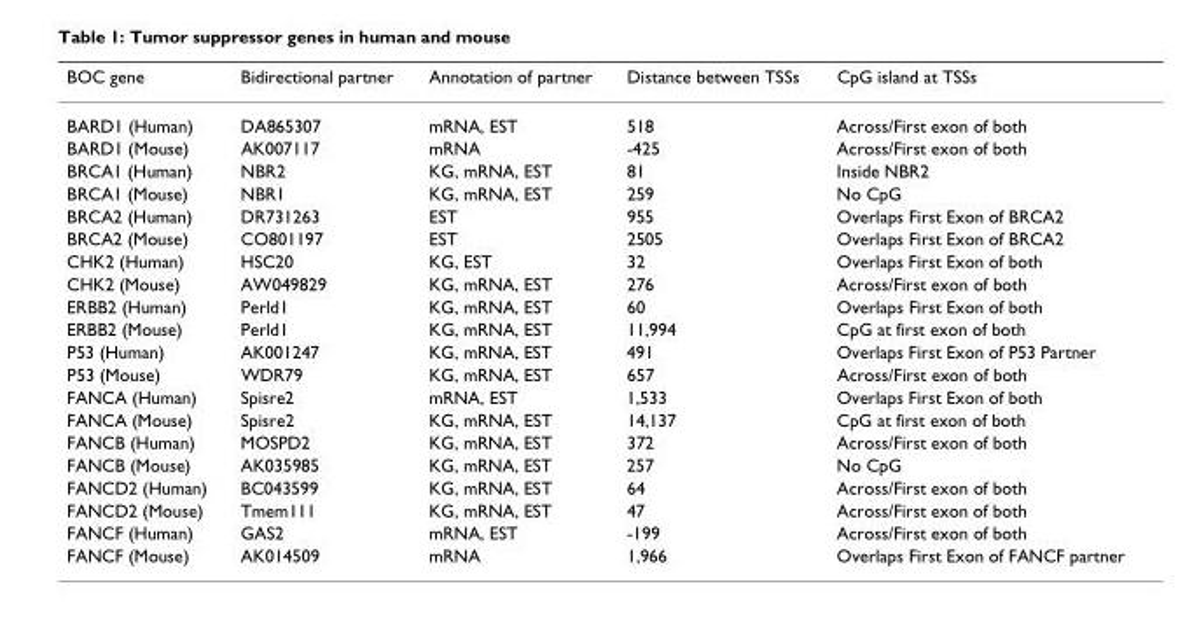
<table><thead><tr><td>BOC gene</td><td>Bidirectional partner</td><td>Annotation of partner</td><td>Distance between TSSs</td><td>CpG island at TSSs</td></tr></thead><tbody><tr><td>BARD1 (Human)</td><td>DA865307</td><td>mRNA, EST</td><td>518</td><td>Across/First exon of both</td></tr><tr><td>BARD1 (Mouse)</td><td>AK007117</td><td>mRNA</td><td>-425</td><td>Across/First exon of both</td></tr><tr><td>BRCA1 (Human)</td><td>NBR2</td><td>KG, mRNA, EST</td><td>81</td><td>Inside NBR2</td></tr><tr><td>BRCA1 (Mouse)</td><td>NBR1</td><td>KG, mRNA, EST</td><td>259</td><td>No CpG</td></tr><tr><td>BRCA2 (Human)</td><td>DR731263</td><td>EST</td><td>955</td><td>Overlaps First Exon of BRCA2</td></tr><tr><td>BRCA2 (Mouse)</td><td>CO801197</td><td>EST</td><td>2505</td><td>Overlaps First Exon of BRCA2</td></tr><tr><td>CHK2 (Human)</td><td>HSC20</td><td>KG, EST</td><td>32</td><td>Overlaps First Exon of both</td></tr><tr><td>CHK2 (Mouse)</td><td>AW049829</td><td>KG, mRNA, EST</td><td>276</td><td>Across/First exon of both</td></tr><tr><td>ERBB2 (Human)</td><td>Perld1</td><td>KG, mRNA, EST</td><td>60</td><td>Overlaps First Exon of both</td></tr><tr><td>ERBB2 (Mouse)</td><td>Perld1</td><td>KG, mRNA, EST</td><td>11,994</td><td>CpG at first exon of both</td></tr><tr><td>P53 (Human)</td><td>AK001247</td><td>KG, mRNA, EST</td><td>491</td><td>Overlaps First Exon of P53 Partner</td></tr><tr><td>P53 (Mouse)</td><td>WDR79</td><td>KG, mRNA, EST</td><td>657</td><td>Across/First exon of both</td></tr><tr><td>FANCA (Human)</td><td>Spisre2</td><td>mRNA, EST</td><td>1,533</td><td>Overlaps First Exon of both</td></tr><tr><td>FANCA (Mouse)</td><td>Spisre2</td><td>KG, mRNA, EST</td><td>14,137</td><td>CpG at first exon of both</td></tr><tr><td>FANCB (Human)</td><td>MOSPD2</td><td>KG, mRNA, EST</td><td>372</td><td>Across/First exon of both</td></tr><tr><td>FANCB (Mouse)</td><td>AK035985</td><td>KG, mRNA, EST</td><td>257</td><td>No CpG</td></tr><tr><td>FANCD2 (Human)</td><td>BC043599</td><td>KG, mRNA, EST</td><td>64</td><td>Across/First exon of both</td></tr><tr><td>FANCD2 (Mouse)</td><td>Tmem111</td><td>KG, mRNA, EST</td><td>47</td><td>Across/First exon of both</td></tr><tr><td>FANCF (Human)</td><td>GAS2</td><td>mRNA, EST</td><td>-199</td><td>Across/First exon of both</td></tr><tr><td>FANCF (Mouse)</td><td>AK014509</td><td>mRNA</td><td>1,966</td><td>Overlaps First Exon of FANCF partner</td></tr></tbody></table>